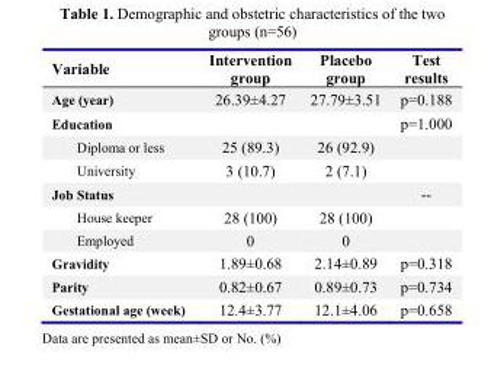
<table><thead><tr><td>Variable</td><td>Intervention group</td><td>Placebo group</td><td>Test results</td></tr></thead><tbody><tr><td>Age (year)</td><td>26.39±4.27</td><td>27.79±3.51</td><td>p=0.188</td></tr><tr><td>Education</td><td></td><td></td><td>p=1.000</td></tr><tr><td>Diploma or less</td><td>25 (89.3)</td><td>26 (92.9)</td><td></td></tr><tr><td>University</td><td>3 (10.7)</td><td>2 (7.1)</td><td></td></tr><tr><td>Job Status</td><td></td><td></td><td>--</td></tr><tr><td>House keeper</td><td>28 (100)</td><td>28 (100)</td><td></td></tr><tr><td>Employed</td><td>0</td><td>0</td><td></td></tr><tr><td>Gravidity</td><td>1.89±0.68</td><td>2.14±0.89</td><td>p=0.318</td></tr><tr><td>Parity</td><td>0.82±0.67</td><td>0.89±0.73</td><td>p=0.734</td></tr><tr><td>Gestational age (week)</td><td>12.4±3.77</td><td>12.1±4.06</td><td>p=0.658</td></tr></tbody></table>